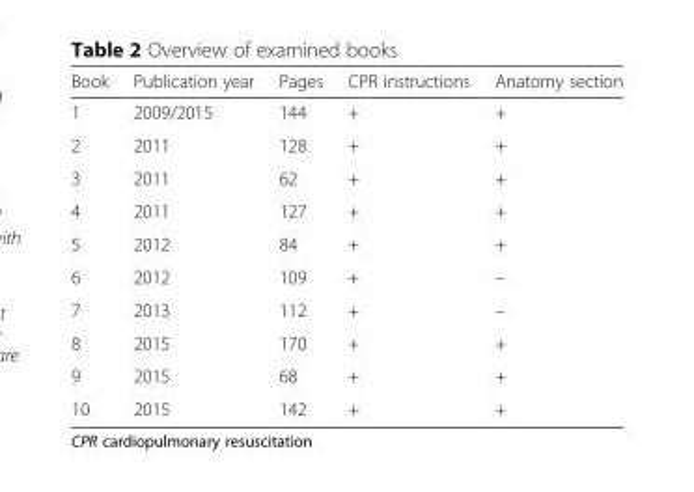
<table><thead><tr><td>Book</td><td>Publication year</td><td>Pages</td><td>CPR instructions</td><td>Anatomy section</td></tr></thead><tbody><tr><td>1</td><td>2009/2015</td><td>144</td><td>+</td><td>+</td></tr><tr><td>2</td><td>2011</td><td>128</td><td>+</td><td>+</td></tr><tr><td>3</td><td>2011</td><td>62</td><td>+</td><td>+</td></tr><tr><td>4</td><td>2011</td><td>127</td><td>+</td><td>+</td></tr><tr><td>5</td><td>2012</td><td>84</td><td>+</td><td>+</td></tr><tr><td>6</td><td>2012</td><td>109</td><td>+</td><td>–</td></tr><tr><td>7</td><td>2013</td><td>112</td><td>+</td><td>–</td></tr><tr><td>8</td><td>2015</td><td>170</td><td>+</td><td>+</td></tr><tr><td>9</td><td>2015</td><td>68</td><td>+</td><td>+</td></tr><tr><td>10</td><td>2015</td><td>142</td><td>+</td><td>+</td></tr></tbody></table>